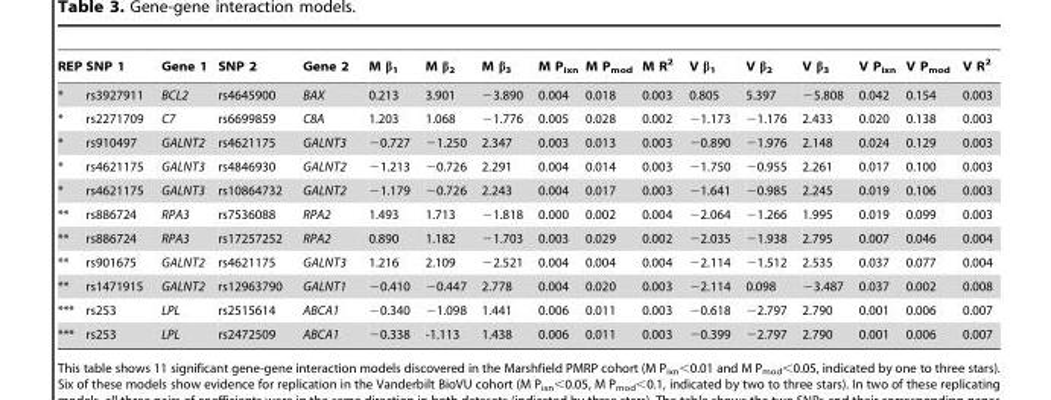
<table><thead><tr><td>REP</td><td>SNP 1</td><td>Gene 1</td><td>SNP 2</td><td>Gene 2</td><td>M β<sub>1</sub></td><td>M β<sub>2</sub></td><td>M β<sub>3</sub></td><td>M P<sub>ixn</sub></td><td>M P<sub>mod</sub></td><td>M R<sup>2</sup></td><td>V β<sub>1</sub></td><td>V β<sub>2</sub></td><td>V β<sub>3</sub></td><td>V P<sub>ixn</sub></td><td>V P<sub>mod</sub></td><td>V R<sup>2</sup></td></tr></thead><tbody><tr><td>*</td><td>rs3927911</td><td>BCL2</td><td>rs4645900</td><td>BAX</td><td>0.213</td><td>3.901</td><td>−3.890</td><td>0.004</td><td>0.018</td><td>0.003</td><td>0.805</td><td>5.397</td><td>−5.808</td><td>0.042</td><td>0.154</td><td>0.003</td></tr><tr><td>*</td><td>rs2271709</td><td>C7</td><td>rs6699859</td><td>C8A</td><td>1.203</td><td>1.068</td><td>−1.776</td><td>0.005</td><td>0.028</td><td>0.002</td><td>−1.173</td><td>−1.176</td><td>2.433</td><td>0.020</td><td>0.138</td><td>0.003</td></tr><tr><td>*</td><td>rs910497</td><td>GALNT2</td><td>rs4621175</td><td>GALNT3</td><td>−0.727</td><td>−1.250</td><td>2.347</td><td>0.003</td><td>0.013</td><td>0.003</td><td>−0.890</td><td>−1.976</td><td>2.148</td><td>0.024</td><td>0.129</td><td>0.003</td></tr><tr><td>*</td><td>rs4621175</td><td>GALNT3</td><td>rs4846930</td><td>GALNT2</td><td>−1.213</td><td>−0.726</td><td>2.291</td><td>0.004</td><td>0.014</td><td>0.003</td><td>−1.750</td><td>−0.955</td><td>2.261</td><td>0.017</td><td>0.100</td><td>0.003</td></tr><tr><td>*</td><td>rs4621175</td><td>GALNT3</td><td>rs10864732</td><td>GALNT2</td><td>−1.179</td><td>−0.726</td><td>2.243</td><td>0.004</td><td>0.017</td><td>0.003</td><td>−1.641</td><td>−0.985</td><td>2.245</td><td>0.019</td><td>0.106</td><td>0.003</td></tr><tr><td>**</td><td>rs886724</td><td>RPA3</td><td>rs7536088</td><td>RPA2</td><td>1.493</td><td>1.713</td><td>−1.818</td><td>0.000</td><td>0.002</td><td>0.004</td><td>−2.064</td><td>−1.266</td><td>1.995</td><td>0.019</td><td>0.099</td><td>0.003</td></tr><tr><td>**</td><td>rs886724</td><td>RPA3</td><td>rs17257252</td><td>RPA2</td><td>0.890</td><td>1.182</td><td>−1.703</td><td>0.003</td><td>0.029</td><td>0.002</td><td>−2.035</td><td>−1.938</td><td>2.795</td><td>0.007</td><td>0.046</td><td>0.004</td></tr><tr><td>**</td><td>rs901675</td><td>GALNT2</td><td>rs4621175</td><td>GALNT3</td><td>1.216</td><td>2.109</td><td>−2.521</td><td>0.004</td><td>0.004</td><td>0.004</td><td>−2.114</td><td>−1.512</td><td>2.535</td><td>0.037</td><td>0.077</td><td>0.004</td></tr><tr><td>**</td><td>rs1471915</td><td>GALNT2</td><td>rs12963790</td><td>GALNT1</td><td>−0.410</td><td>−0.447</td><td>2.778</td><td>0.004</td><td>0.020</td><td>0.003</td><td>−2.114</td><td>0.098</td><td>−3.487</td><td>0.037</td><td>0.002</td><td>0.008</td></tr><tr><td>***</td><td>rs253</td><td>LPL</td><td>rs2515614</td><td>ABCA1</td><td>−0.340</td><td>−1.098</td><td>1.441</td><td>0.006</td><td>0.011</td><td>0.003</td><td>−0.618</td><td>−2.797</td><td>2.790</td><td>0.001</td><td>0.006</td><td>0.007</td></tr><tr><td>***</td><td>rs253</td><td>LPL</td><td>rs2472509</td><td>ABCA1</td><td>−0.338</td><td>-1.113</td><td>1.438</td><td>0.006</td><td>0.011</td><td>0.003</td><td>−0.399</td><td>−2.797</td><td>2.790</td><td>0.001</td><td>0.006</td><td>0.007</td></tr></tbody></table>